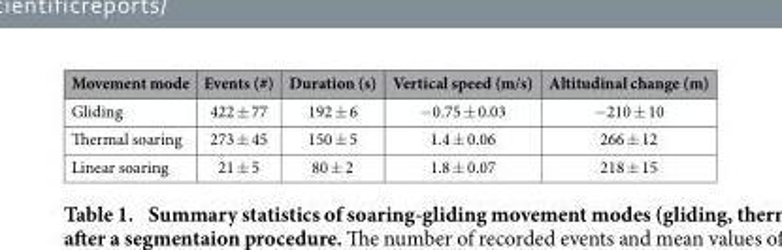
<table><thead><tr><td>Movement mode</td><td>Events (#)</td><td>Duration (s)</td><td>Vertical speed (m/s)</td><td>Altitudinal change (m)</td></tr></thead><tbody><tr><td>Gliding</td><td>422 ± 77</td><td>192 ± 6</td><td>− 0.75 ± 0.03</td><td>− 210 ± 10</td></tr><tr><td>Thermal soaring</td><td>273 ± 45</td><td>150 ± 5</td><td>1.4 ± 0.06</td><td>266 ± 12</td></tr><tr><td>Linear soaring</td><td>21 ± 5</td><td>80 ± 2</td><td>1.8 ± 0.07</td><td>218 ± 15</td></tr></tbody></table>